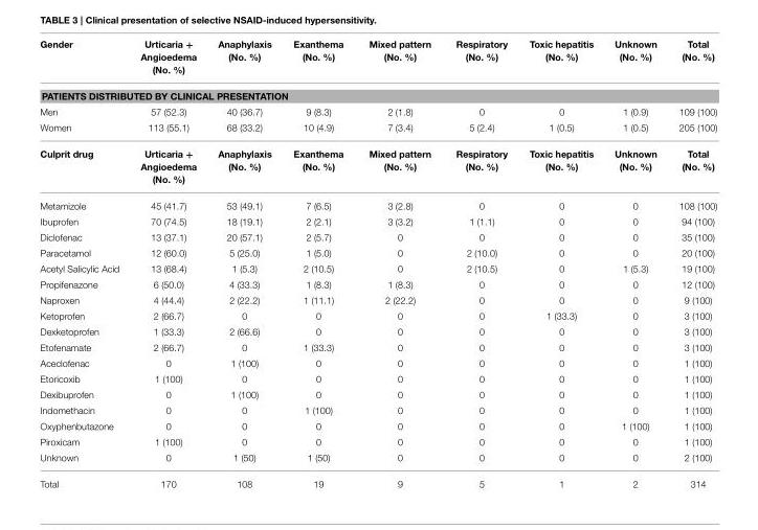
<table><thead><tr><td>Gender</td><td>Urticaria + Angioedema (No. %)</td><td>Anaphylaxis (No. %)</td><td>Exanthema (No. %)</td><td>Mixed pattern (No. %)</td><td>Respiratory (No. %)</td><td>Toxic hepatitis (No. %)</td><td>Unknown (No. %)</td><td>Total (No. %)</td></tr></thead><tbody><tr><td colspan="9">PATIENTS DISTRIBUTED BY CLINICAL PRESENTATION</td></tr><tr><td>Men</td><td>57 (52.3)</td><td>40 (36.7)</td><td>9 (8.3)</td><td>2 (1.8)</td><td>0</td><td>0</td><td>1 (0.9)</td><td>109 (100)</td></tr><tr><td>Women</td><td>113 (55.1)</td><td>68 (33.2)</td><td>10 (4.9)</td><td>7 (3.4)</td><td>5 (2.4)</td><td>1 (0.5)</td><td>1 (0.5)</td><td>205 (100)</td></tr><tr><td>Culprit drug</td><td>Urticaria + Angioedema (No. %)</td><td>Anaphylaxis (No. %)</td><td>Exanthema (No. %)</td><td>Mixed pattern (No. %)</td><td>Respiratory (No. %)</td><td>Toxic hepatitis (No. %)</td><td>Unknown (No. %)</td><td>Total (No. %)</td></tr><tr><td>Metamizole</td><td>45 (41.7)</td><td>53 (49.1)</td><td>7 (6.5)</td><td>3 (2.8)</td><td>0</td><td>0</td><td>0</td><td>108 (100)</td></tr><tr><td>Ibuprofen</td><td>70 (74.5)</td><td>18 (19.1)</td><td>2 (2.1)</td><td>3 (3.2)</td><td>1 (1.1)</td><td>0</td><td>0</td><td>94 (100)</td></tr><tr><td>Diclofenac</td><td>13 (37.1)</td><td>20 (57.1)</td><td>2 (5.7)</td><td>0</td><td>0</td><td>0</td><td>0</td><td>35 (100)</td></tr><tr><td>Paracetamol</td><td>12 (60.0)</td><td>5 (25.0)</td><td>1 (5.0)</td><td>0</td><td>2 (10.0)</td><td>0</td><td>0</td><td>20 (100)</td></tr><tr><td>Acetyl Salicylic Acid</td><td>13 (68.4)</td><td>1 (5.3)</td><td>2 (10.5)</td><td>0</td><td>2 (10.5)</td><td>0</td><td>1 (5.3)</td><td>19 (100)</td></tr><tr><td>Propifenazone</td><td>6 (50.0)</td><td>4 (33.3)</td><td>1 (8.3)</td><td>1 (8.3)</td><td>0</td><td>0</td><td>0</td><td>12 (100)</td></tr><tr><td>Naproxen</td><td>4 (44.4)</td><td>2 (22.2)</td><td>1 (11.1)</td><td>2 (22.2)</td><td>0</td><td>0</td><td>0</td><td>9 (100)</td></tr><tr><td>Ketoprofen</td><td>2 (66.7)</td><td>0</td><td>0</td><td>0</td><td>0</td><td>1 (33.3)</td><td>0</td><td>3 (100)</td></tr><tr><td>Dexketoprofen</td><td>1 (33.3)</td><td>2 (66.6)</td><td>0</td><td>0</td><td>0</td><td>0</td><td>0</td><td>3 (100)</td></tr><tr><td>Etofenamate</td><td>2 (66.7)</td><td>0</td><td>1 (33.3)</td><td>0</td><td>0</td><td>0</td><td>0</td><td>3 (100)</td></tr><tr><td>Aceclofenac</td><td>0</td><td>1 (100)</td><td>0</td><td>0</td><td>0</td><td>0</td><td>0</td><td>1 (100)</td></tr><tr><td>Etoricoxib</td><td>1 (100)</td><td>0</td><td>0</td><td>0</td><td>0</td><td>0</td><td>0</td><td>1 (100)</td></tr><tr><td>Dexibuprofen</td><td>0</td><td>1 (100)</td><td>0</td><td>0</td><td>0</td><td>0</td><td>0</td><td>1 (100)</td></tr><tr><td>Indomethacin</td><td>0</td><td>0</td><td>1 (100)</td><td>0</td><td>0</td><td>0</td><td>0</td><td>1 (100)</td></tr><tr><td>Oxyphenbutazone</td><td>0</td><td>0</td><td>0</td><td>0</td><td>0</td><td>0</td><td>1 (100)</td><td>1 (100)</td></tr><tr><td>Piroxicam</td><td>1 (100)</td><td>0</td><td>0</td><td>0</td><td>0</td><td>0</td><td>0</td><td>1 (100)</td></tr><tr><td>Unknown</td><td>0</td><td>1 (50)</td><td>1 (50)</td><td>0</td><td>0</td><td>0</td><td>0</td><td>2 (100)</td></tr><tr><td>Total</td><td>170</td><td>108</td><td>19</td><td>9</td><td>5</td><td>1</td><td>2</td><td>314</td></tr></tbody></table>